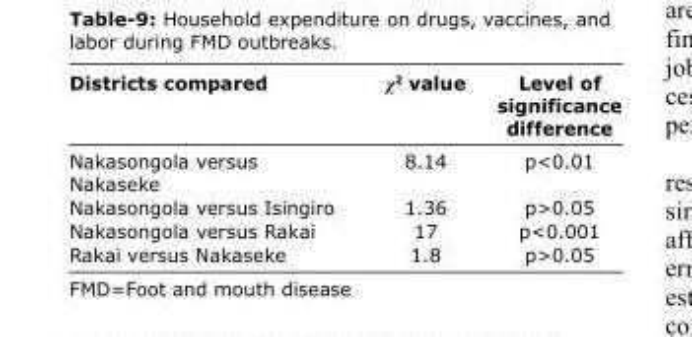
<table><thead><tr><td>Districts compared</td><td>χ<sup>2</sup> value</td><td>Level of significance difference</td></tr></thead><tbody><tr><td>Nakasongola versus Nakaseke</td><td>8.14</td><td>p&lt;0.01</td></tr><tr><td>Nakasongola versus Isingiro</td><td>1.36</td><td>p&gt;0.05</td></tr><tr><td>Nakasongola versus Rakai</td><td>17</td><td>p&lt;0.001</td></tr><tr><td>Rakai versus Nakaseke</td><td>1.8</td><td>p&gt;0.05</td></tr></tbody></table>